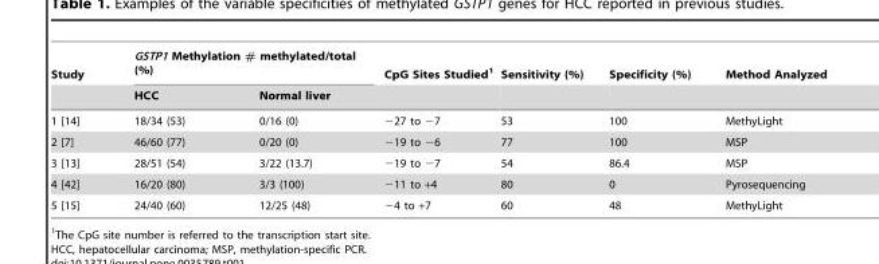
<table><thead><tr><td rowspan="2">Study</td><td colspan="2">GSTP1 Methylation # methylated/total (%)</td><td rowspan="2">CpG Sites Studied<sup>1</sup></td><td rowspan="2">Sensitivity (%)</td><td rowspan="2">Specificity (%)</td><td rowspan="2">Method Analyzed</td></tr><tr><td>HCC</td><td>Normal liver</td></tr></thead><tbody><tr><td>1 [14]</td><td>18/34 (53)</td><td>0/16 (0)</td><td>−27 to −7</td><td>53</td><td>100</td><td>MethyLight</td></tr><tr><td>2 [7]</td><td>46/60 (77)</td><td>0/20 (0)</td><td>−19 to −6</td><td>77</td><td>100</td><td>MSP</td></tr><tr><td>3 [13]</td><td>28/51 (54)</td><td>3/22 (13.7)</td><td>−19 to −7</td><td>54</td><td>86.4</td><td>MSP</td></tr><tr><td>4 [42]</td><td>16/20 (80)</td><td>3/3 (100)</td><td>−11 to +4</td><td>80</td><td>0</td><td>Pyrosequencing</td></tr><tr><td>5 [15]</td><td>24/40 (60)</td><td>12/25 (48)</td><td>−4 to +7</td><td>60</td><td>48</td><td>MethyLight</td></tr></tbody></table>